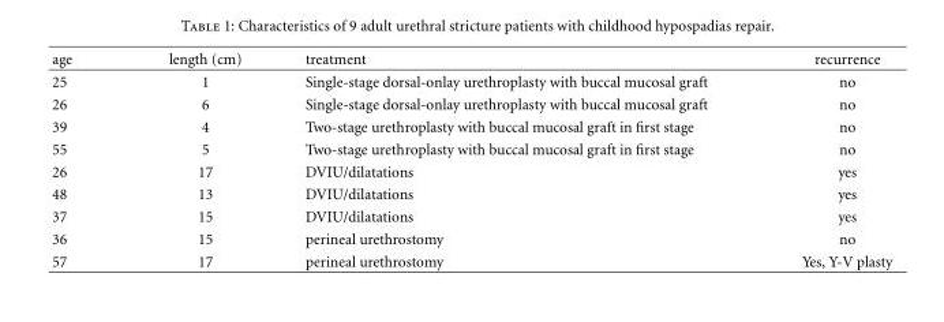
<table><thead><tr><td>age</td><td>length (cm)</td><td>treatment</td><td>recurrence</td></tr></thead><tbody><tr><td>25</td><td>1</td><td>Single-stage dorsal-onlay urethroplasty with buccal mucosal graft</td><td>no</td></tr><tr><td>26</td><td>6</td><td>Single-stage dorsal-onlay urethroplasty with buccal mucosal graft</td><td>no</td></tr><tr><td>39</td><td>4</td><td>Two-stage urethroplasty with buccal mucosal graft in first stage</td><td>no</td></tr><tr><td>55</td><td>5</td><td>Two-stage urethroplasty with buccal mucosal graft in first stage</td><td>no</td></tr><tr><td>26</td><td>17</td><td>DVIU/dilatations</td><td>yes</td></tr><tr><td>48</td><td>13</td><td>DVIU/dilatations</td><td>yes</td></tr><tr><td>37</td><td>15</td><td>DVIU/dilatations</td><td>yes</td></tr><tr><td>36</td><td>15</td><td>perineal urethrostomy</td><td>no</td></tr><tr><td>57</td><td>17</td><td>perineal urethrostomy</td><td>Yes, Y-V plasty</td></tr></tbody></table>